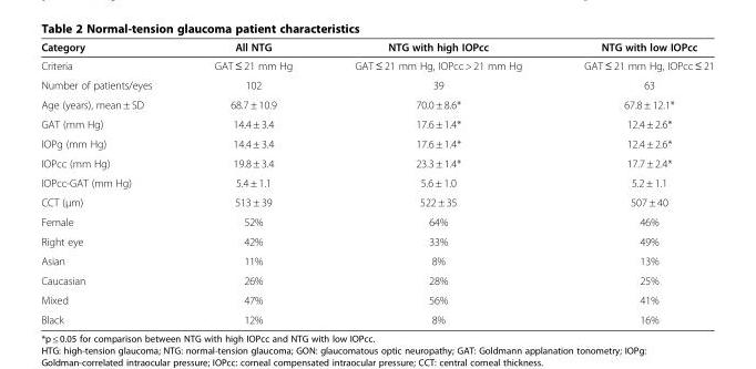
<table><thead><tr><td>Category</td><td>All NTG</td><td>NTG with high IOPcc</td><td>NTG with low IOPcc</td></tr></thead><tbody><tr><td>Criteria</td><td>GAT ≤ 21 mm Hg</td><td>GAT ≤ 21 mm Hg, IOPcc &gt; 21 mm Hg</td><td>GAT ≤ 21 mm Hg, IOPcc ≤ 21</td></tr><tr><td>Number of patients/eyes</td><td>102</td><td>39</td><td>63</td></tr><tr><td>Age (years), mean ± SD</td><td>68.7 ± 10.9</td><td>70.0 ± 8.6*</td><td>67.8 ± 12.1*</td></tr><tr><td>GAT (mm Hg)</td><td>14.4 ± 3.4</td><td>17.6 ± 1.4*</td><td>12.4 ± 2.6*</td></tr><tr><td>IOPg (mm Hg)</td><td>14.4 ± 3.4</td><td>17.6 ± 1.4*</td><td>12.4 ± 2.6*</td></tr><tr><td>IOPcc (mm Hg)</td><td>19.8 ± 3.4</td><td>23.3 ± 1.4*</td><td>17.7 ± 2.4*</td></tr><tr><td>IOPcc-GAT (mm Hg)</td><td>5.4 ± 1.1</td><td>5.6 ± 1.0</td><td>5.2 ± 1.1</td></tr><tr><td>CCT (μm)</td><td>513 ± 39</td><td>522 ± 35</td><td>507 ± 40</td></tr><tr><td>Female</td><td>52%</td><td>64%</td><td>46%</td></tr><tr><td>Right eye</td><td>42%</td><td>33%</td><td>49%</td></tr><tr><td>Asian</td><td>11%</td><td>8%</td><td>13%</td></tr><tr><td>Caucasian</td><td>26%</td><td>28%</td><td>25%</td></tr><tr><td>Mixed</td><td>47%</td><td>56%</td><td>41%</td></tr><tr><td>Black</td><td>12%</td><td>8%</td><td>16%</td></tr></tbody></table>